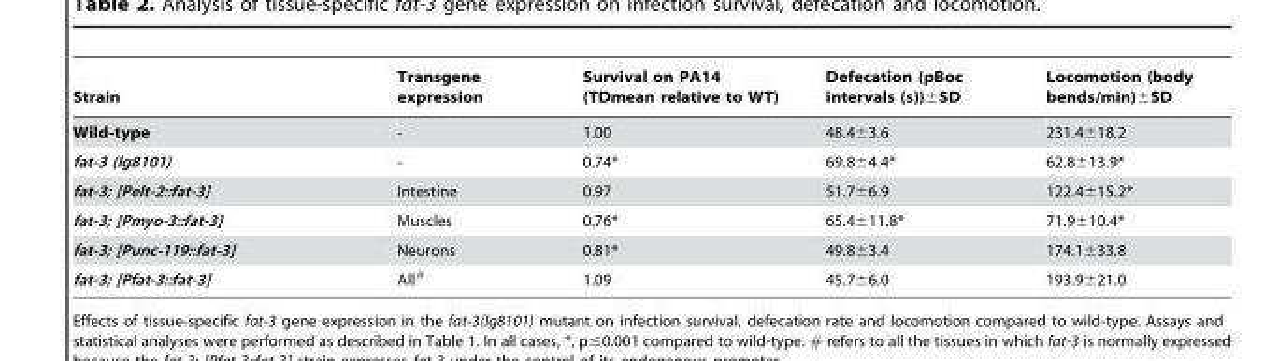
<table><thead><tr><td>Strain</td><td>Transgene expression</td><td>Survival on PA14 (TDmean relative to WT)</td><td>Defecation (pBoc intervals (s))±SD</td><td>Locomotion (body bends/min)±SD</td></tr></thead><tbody><tr><td>Wild-type</td><td>-</td><td>1.00</td><td>48.4±3.6</td><td>231.4±18.2</td></tr><tr><td>fat-3 (lg8101)</td><td>-</td><td>0.74*</td><td>69.8±4.4*</td><td>62.8±13.9*</td></tr><tr><td>fat-3; [Pelt-2::fat-3]</td><td>Intestine</td><td>0.97</td><td>51.7±6.9</td><td>122.4±15.2*</td></tr><tr><td>fat-3; [Pmyo-3::fat-3]</td><td>Muscles</td><td>0.76*</td><td>65.4±11.8*</td><td>71.9±10.4*</td></tr><tr><td>fat-3; [Punc-119::fat-3]</td><td>Neurons</td><td>0.81*</td><td>49.8±3.4</td><td>174.1±33.8</td></tr><tr><td>fat-3; [Pfat-3::fat-3]</td><td>All<sup>#</sup></td><td>1.09</td><td>45.7±6.0</td><td>193.9±21.0</td></tr></tbody></table>